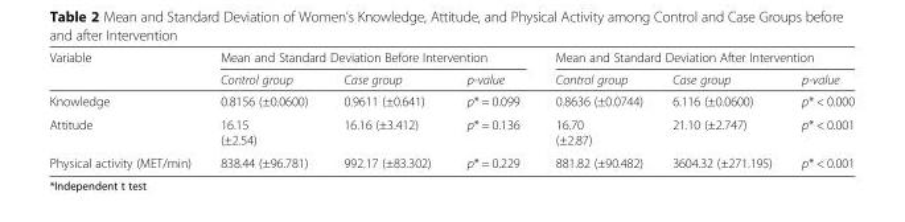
<table><thead><tr><td rowspan="2">Variable</td><td colspan="3">Mean and Standard Deviation Before Intervention</td><td colspan="3">Mean and Standard Deviation After Intervention</td></tr><tr><td>Control group</td><td>Case group</td><td>p-value</td><td>Control group</td><td>Case group</td><td>p-value</td></tr></thead><tbody><tr><td>Knowledge</td><td>0.8156 (±0.0600)</td><td>0.9611 (±0.641)</td><td>p* = 0.099</td><td>0.8636 (±0.0744)</td><td>6.116 (±0.0600)</td><td>p* &lt; 0.000</td></tr><tr><td>Attitude</td><td>16.15 (±2.54)</td><td>16.16 (±3.412)</td><td>p* = 0.136</td><td>16.70 (±2.87)</td><td>21.10 (±2.747)</td><td>p* &lt; 0.001</td></tr><tr><td>Physical activity (MET/min)</td><td>838.44 (±96.781)</td><td>992.17 (±83.302)</td><td>p* = 0.229</td><td>881.82 (±90.482)</td><td>3604.32 (±271.195)</td><td>p* &lt; 0.001</td></tr></tbody></table>